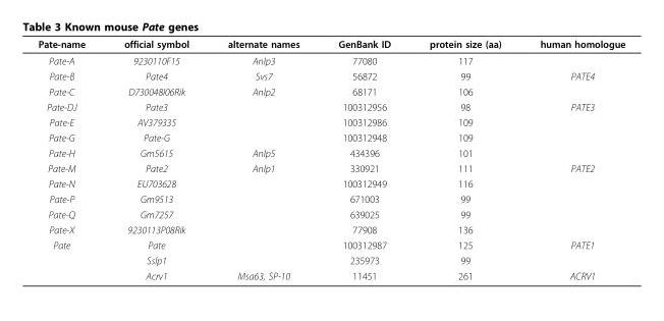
<table><thead><tr><td>Pate-name</td><td>official symbol</td><td>alternate names</td><td>GenBank ID</td><td>protein size (aa)</td><td>human homologue</td></tr></thead><tbody><tr><td>Pate-A</td><td>9230110F15</td><td>Anlp3</td><td>77080</td><td>117</td><td></td></tr><tr><td>Pate-B</td><td>Pate4</td><td>Svs7</td><td>56872</td><td>99</td><td>PATE4</td></tr><tr><td>Pate-C</td><td>D730048I06Rik</td><td>Anlp2</td><td>68171</td><td>106</td><td></td></tr><tr><td>Pate-DJ</td><td>Pate3</td><td></td><td>100312956</td><td>98</td><td>PATE3</td></tr><tr><td>Pate-E</td><td>AV379335</td><td></td><td>100312986</td><td>109</td><td></td></tr><tr><td>Pate-G</td><td>Pate-G</td><td></td><td>100312948</td><td>109</td><td></td></tr><tr><td>Pate-H</td><td>Gm5615</td><td>Anlp5</td><td>434396</td><td>101</td><td></td></tr><tr><td>Pate-M</td><td>Pate2</td><td>Anlp1</td><td>330921</td><td>111</td><td>PATE2</td></tr><tr><td>Pate-N</td><td>EU703628</td><td></td><td>100312949</td><td>116</td><td></td></tr><tr><td>Pate-P</td><td>Gm9513</td><td></td><td>671003</td><td>99</td><td></td></tr><tr><td>Pate-Q</td><td>Gm7257</td><td></td><td>639025</td><td>99</td><td></td></tr><tr><td>Pate-X</td><td>9230113P08Rik</td><td></td><td>77908</td><td>136</td><td></td></tr><tr><td rowspan="3">Pate</td><td>Pate</td><td></td><td>100312987</td><td>125</td><td>PATE1</td></tr><tr><td>Sslp1</td><td></td><td>235973</td><td>99</td><td></td></tr><tr><td>Acrv1</td><td>Msa63, SP-10</td><td>11451</td><td>261</td><td>ACRV1</td></tr></tbody></table>